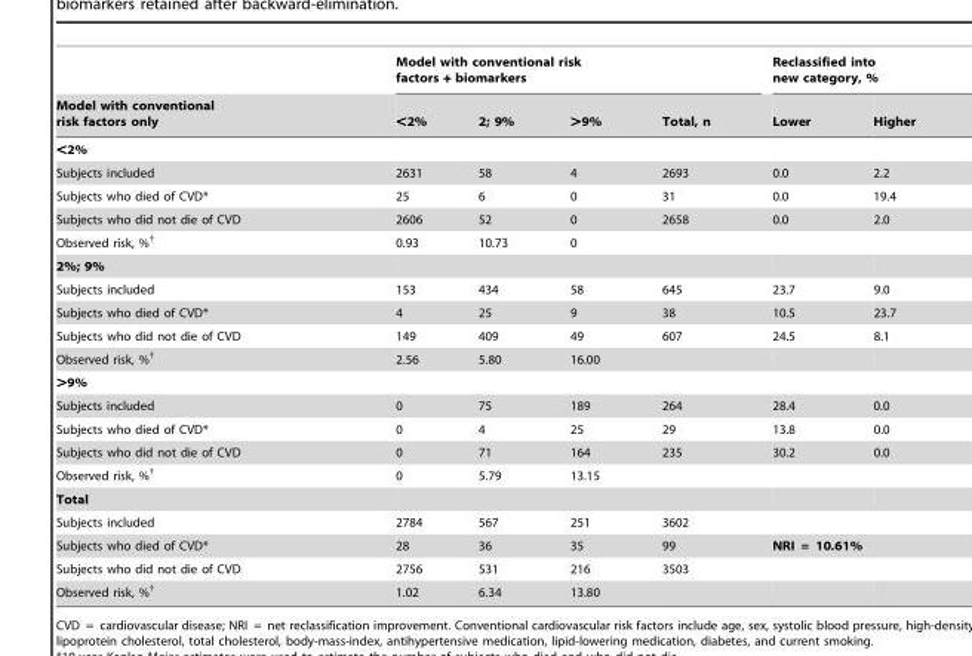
<table><thead><tr><td rowspan="2">Model with conventional risk factors only</td><td colspan="4">Model with conventional risk factors + biomarkers</td><td colspan="2">Reclassified into new category, %</td></tr><tr><td>&lt;2%</td><td>2; 9%</td><td>&gt;9%</td><td>Total, n</td><td>Lower</td><td>Higher</td></tr></thead><tbody><tr><td colspan="7">&lt;2%</td></tr><tr><td>Subjects included</td><td>2631</td><td>58</td><td>4</td><td>2693</td><td>0.0</td><td>2.2</td></tr><tr><td>Subjects who died of CVD*</td><td>25</td><td>6</td><td>0</td><td>31</td><td>0.0</td><td>19.4</td></tr><tr><td>Subjects who did not die of CVD</td><td>2606</td><td>52</td><td>0</td><td>2658</td><td>0.0</td><td>2.0</td></tr><tr><td>Observed risk, %†</td><td>0.93</td><td>10.73</td><td>0</td><td></td><td></td><td></td></tr><tr><td colspan="7">2%; 9%</td></tr><tr><td>Subjects included</td><td>153</td><td>434</td><td>58</td><td>645</td><td>23.7</td><td>9.0</td></tr><tr><td>Subjects who died of CVD*</td><td>4</td><td>25</td><td>9</td><td>38</td><td>10.5</td><td>23.7</td></tr><tr><td>Subjects who did not die of CVD</td><td>149</td><td>409</td><td>49</td><td>607</td><td>24.5</td><td>8.1</td></tr><tr><td>Observed risk, %†</td><td>2.56</td><td>5.80</td><td>16.00</td><td></td><td></td><td></td></tr><tr><td colspan="7">&gt;9%</td></tr><tr><td>Subjects included</td><td>0</td><td>75</td><td>189</td><td>264</td><td>28.4</td><td>0.0</td></tr><tr><td>Subjects who died of CVD*</td><td>0</td><td>4</td><td>25</td><td>29</td><td>13.8</td><td>0.0</td></tr><tr><td>Subjects who did not die of CVD</td><td>0</td><td>71</td><td>164</td><td>235</td><td>30.2</td><td>0.0</td></tr><tr><td>Observed risk, %†</td><td>0</td><td>5.79</td><td>13.15</td><td></td><td></td><td></td></tr><tr><td colspan="7">Total</td></tr><tr><td>Subjects included</td><td>2784</td><td>567</td><td>251</td><td>3602</td><td></td><td></td></tr><tr><td>Subjects who died of CVD*</td><td>28</td><td>36</td><td>35</td><td>99</td><td colspan="2">NRI = 10.61%</td></tr><tr><td>Subjects who did not die of CVD</td><td>2756</td><td>531</td><td>216</td><td>3503</td><td></td><td></td></tr><tr><td>Observed risk, %†</td><td>1.02</td><td>6.34</td><td>13.80</td><td></td><td></td><td></td></tr></tbody></table>